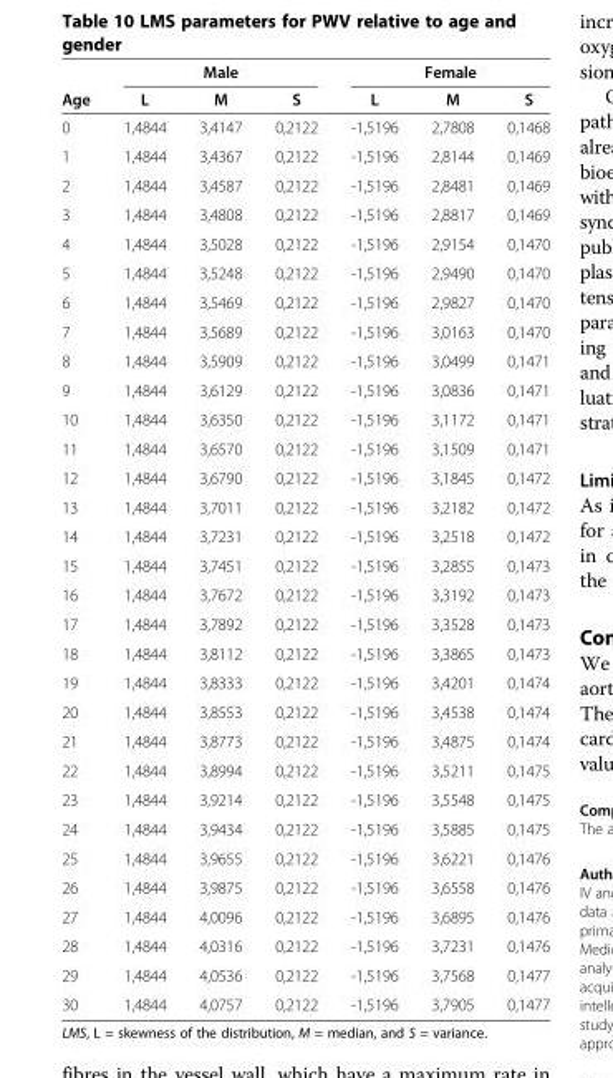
<table><thead><tr><td rowspan="2">Age</td><td colspan="3">Male</td><td colspan="3">Female</td></tr><tr><td>L</td><td>M</td><td>S</td><td>L</td><td>M</td><td>S</td></tr></thead><tbody><tr><td>0</td><td>1,4844</td><td>3,4147</td><td>0,2122</td><td>-1,5196</td><td>2,7808</td><td>0,1468</td></tr><tr><td>1</td><td>1,4844</td><td>3,4367</td><td>0,2122</td><td>-1,5196</td><td>2,8144</td><td>0,1469</td></tr><tr><td>2</td><td>1,4844</td><td>3,4587</td><td>0,2122</td><td>-1,5196</td><td>2,8481</td><td>0,1469</td></tr><tr><td>3</td><td>1,4844</td><td>3,4808</td><td>0,2122</td><td>-1,5196</td><td>2,8817</td><td>0,1469</td></tr><tr><td>4</td><td>1,4844</td><td>3,5028</td><td>0,2122</td><td>-1,5196</td><td>2,9154</td><td>0,1470</td></tr><tr><td>5</td><td>1,4844</td><td>3,5248</td><td>0,2122</td><td>-1,5196</td><td>2,9490</td><td>0,1470</td></tr><tr><td>6</td><td>1,4844</td><td>3,5469</td><td>0,2122</td><td>-1,5196</td><td>2,9827</td><td>0,1470</td></tr><tr><td>7</td><td>1,4844</td><td>3,5689</td><td>0,2122</td><td>-1,5196</td><td>3,0163</td><td>0,1470</td></tr><tr><td>8</td><td>1,4844</td><td>3,5909</td><td>0,2122</td><td>-1,5196</td><td>3,0499</td><td>0,1471</td></tr><tr><td>9</td><td>1,4844</td><td>3,6129</td><td>0,2122</td><td>-1,5196</td><td>3,0836</td><td>0,1471</td></tr><tr><td>10</td><td>1,4844</td><td>3,6350</td><td>0,2122</td><td>-1,5196</td><td>3,1172</td><td>0,1471</td></tr><tr><td>11</td><td>1,4844</td><td>3,6570</td><td>0,2122</td><td>-1,5196</td><td>3,1509</td><td>0,1471</td></tr><tr><td>12</td><td>1,4844</td><td>3,6790</td><td>0,2122</td><td>-1,5196</td><td>3,1845</td><td>0,1472</td></tr><tr><td>13</td><td>1,4844</td><td>3,7011</td><td>0,2122</td><td>-1,5196</td><td>3,2182</td><td>0,1472</td></tr><tr><td>14</td><td>1,4844</td><td>3,7231</td><td>0,2122</td><td>-1,5196</td><td>3,2518</td><td>0,1472</td></tr><tr><td>15</td><td>1,4844</td><td>3,7451</td><td>0,2122</td><td>-1,5196</td><td>3,2855</td><td>0,1473</td></tr><tr><td>16</td><td>1,4844</td><td>3,7672</td><td>0,2122</td><td>-1,5196</td><td>3,3192</td><td>0,1473</td></tr><tr><td>17</td><td>1,4844</td><td>3,7892</td><td>0,2122</td><td>-1,5196</td><td>3,3528</td><td>0,1473</td></tr><tr><td>18</td><td>1,4844</td><td>3,8112</td><td>0,2122</td><td>-1,5196</td><td>3,3865</td><td>0,1473</td></tr><tr><td>19</td><td>1,4844</td><td>3,8333</td><td>0,2122</td><td>-1,5196</td><td>3,4201</td><td>0,1474</td></tr><tr><td>20</td><td>1,4844</td><td>3,8553</td><td>0,2122</td><td>-1,5196</td><td>3,4538</td><td>0,1474</td></tr><tr><td>21</td><td>1,4844</td><td>3,8773</td><td>0,2122</td><td>-1,5196</td><td>3,4875</td><td>0,1474</td></tr><tr><td>22</td><td>1,4844</td><td>3,8994</td><td>0,2122</td><td>-1,5196</td><td>3,5211</td><td>0,1475</td></tr><tr><td>23</td><td>1,4844</td><td>3,9214</td><td>0,2122</td><td>-1,5196</td><td>3,5548</td><td>0,1475</td></tr><tr><td>24</td><td>1,4844</td><td>3,9434</td><td>0,2122</td><td>-1,5196</td><td>3,5885</td><td>0,1475</td></tr><tr><td>25</td><td>1,4844</td><td>3,9655</td><td>0,2122</td><td>-1,5196</td><td>3,6221</td><td>0,1476</td></tr><tr><td>26</td><td>1,4844</td><td>3,9875</td><td>0,2122</td><td>-1,5196</td><td>3,6558</td><td>0,1476</td></tr><tr><td>27</td><td>1,4844</td><td>4,0096</td><td>0,2122</td><td>-1,5196</td><td>3,6895</td><td>0,1476</td></tr><tr><td>28</td><td>1,4844</td><td>4,0316</td><td>0,2122</td><td>-1,5196</td><td>3,7231</td><td>0,1476</td></tr><tr><td>29</td><td>1,4844</td><td>4,0536</td><td>0,2122</td><td>-1,5196</td><td>3,7568</td><td>0,1477</td></tr><tr><td>30</td><td>1,4844</td><td>4,0757</td><td>0,2122</td><td>-1,5196</td><td>3,7905</td><td>0,1477</td></tr></tbody></table>